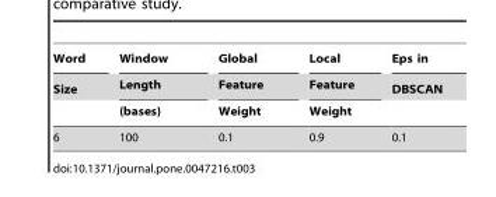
<table><thead><tr><td rowspan="3">Word Size</td><td rowspan="3">Window Length (bases)</td><td rowspan="3">Global Feature Weight</td><td rowspan="3">Local Feature Weight</td><td rowspan="3">Eps in DBSCAN</td></tr><tr></tr><tr></tr></thead><tbody><tr><td>6</td><td>100</td><td>0.1</td><td>0.9</td><td>0.1</td></tr></tbody></table>